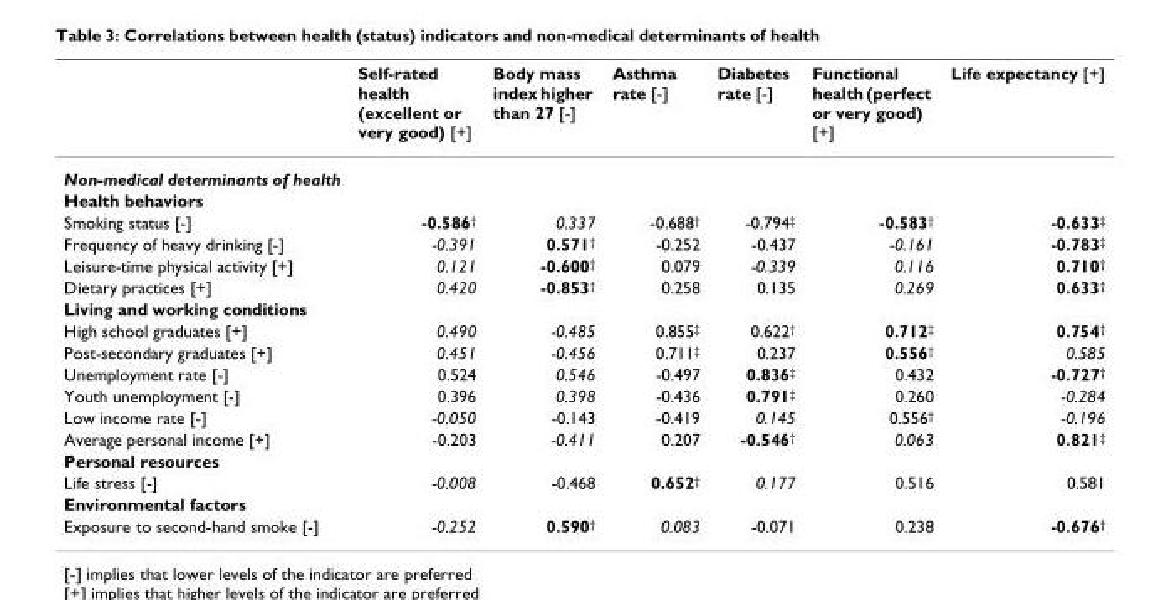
<table><thead><tr><td></td><td>Self-rated health (excellent or very good) [+]</td><td>Body mass index higher than 27 [-]</td><td>Asthma rate [-]</td><td>Diabetes rate [-]</td><td>Functional health (perfect or very good) [+]</td><td>Life expectancy [+]</td></tr></thead><tbody><tr><td colspan="7">Non-medical determinants of health</td></tr><tr><td colspan="7">Health behaviors</td></tr><tr><td>Smoking status [-]</td><td>-0.586<sup>†</sup></td><td>0.337</td><td>-0.688<sup>†</sup></td><td>-0.794<sup>‡</sup></td><td>-0.583<sup>†</sup></td><td>-0.633<sup>‡</sup></td></tr><tr><td>Frequency of heavy drinking [-]</td><td>-0.391</td><td>0.571<sup>†</sup></td><td>-0.252</td><td>-0.437</td><td>-0.161</td><td>-0.783<sup>‡</sup></td></tr><tr><td>Leisure-time physical activity [+]</td><td>0.121</td><td>-0.600<sup>†</sup></td><td>0.079</td><td>-0.339</td><td>0.116</td><td>0.710<sup>†</sup></td></tr><tr><td>Dietary practices [+]</td><td>0.420</td><td>-0.853<sup>†</sup></td><td>0.258</td><td>0.135</td><td>0.269</td><td>0.633<sup>†</sup></td></tr><tr><td colspan="7">Living and working conditions</td></tr><tr><td>High school graduates [+]</td><td>0.490</td><td>-0.485</td><td>0.855<sup>‡</sup></td><td>0.622<sup>†</sup></td><td>0.712<sup>‡</sup></td><td>0.754<sup>†</sup></td></tr><tr><td>Post-secondary graduates [+]</td><td>0.451</td><td>-0.456</td><td>0.711<sup>‡</sup></td><td>0.237</td><td>0.556<sup>†</sup></td><td>0.585</td></tr><tr><td>Unemployment rate [-]</td><td>0.524</td><td>0.546</td><td>-0.497</td><td>0.836<sup>‡</sup></td><td>0.432</td><td>-0.727<sup>†</sup></td></tr><tr><td>Youth unemployment [-]</td><td>0.396</td><td>0.398</td><td>-0.436</td><td>0.791<sup>‡</sup></td><td>0.260</td><td>-0.284</td></tr><tr><td>Low income rate [-]</td><td>-0.050</td><td>-0.143</td><td>-0.419</td><td>0.145</td><td>0.556<sup>†</sup></td><td>-0.196</td></tr><tr><td>Average personal income [+]</td><td>-0.203</td><td>-0.411</td><td>0.207</td><td>-0.546<sup>†</sup></td><td>0.063</td><td>0.821<sup>‡</sup></td></tr><tr><td colspan="7">Personal resources</td></tr><tr><td>Life stress [-]</td><td>-0.008</td><td>-0.468</td><td>0.652<sup>†</sup></td><td>0.177</td><td>0.516</td><td>0.581</td></tr><tr><td colspan="7">Environmental factors</td></tr><tr><td>Exposure to second-hand smoke [-]</td><td>-0.252</td><td>0.590<sup>†</sup></td><td>0.083</td><td>-0.071</td><td>0.238</td><td>-0.676<sup>†</sup></td></tr></tbody></table>